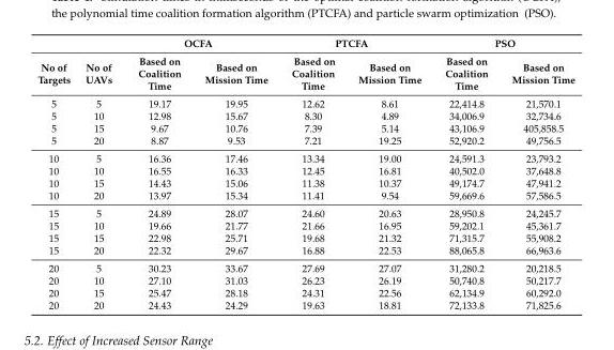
<table><thead><tr><td rowspan="2">No of Targets</td><td rowspan="2">No of UAVs</td><td colspan="2">OCFA</td><td colspan="2">PTCFA</td><td colspan="2">PSO</td></tr><tr><td>Based on Coalition Time</td><td>Based on Mission Time</td><td>Based on Coalition Time</td><td>Based on Mission Time</td><td>Based on Coalition Time</td><td>Based on Mission Time</td></tr></thead><tbody><tr><td>5</td><td>5</td><td>19.17</td><td>19.95</td><td>12.62</td><td>8.61</td><td>22,414.8</td><td>21,570.1</td></tr><tr><td>5</td><td>10</td><td>12.98</td><td>15.67</td><td>8.30</td><td>4.89</td><td>34,006.9</td><td>32,734.6</td></tr><tr><td>5</td><td>15</td><td>9.67</td><td>10.76</td><td>7.39</td><td>5.14</td><td>43,106.9</td><td>405,858.5</td></tr><tr><td>5</td><td>20</td><td>8.87</td><td>9.53</td><td>7.21</td><td>19.25</td><td>52,920.2</td><td>49,756.5</td></tr><tr><td>10</td><td>5</td><td>16.36</td><td>17.46</td><td>13.34</td><td>19.00</td><td>24,591.3</td><td>23,793.2</td></tr><tr><td>10</td><td>10</td><td>16.55</td><td>16.33</td><td>12.45</td><td>16.81</td><td>40,502.0</td><td>37,648.8</td></tr><tr><td>10</td><td>15</td><td>14.43</td><td>15.06</td><td>11.38</td><td>10.37</td><td>49,174.7</td><td>47,941.2</td></tr><tr><td>10</td><td>20</td><td>13.97</td><td>15.34</td><td>11.41</td><td>9.54</td><td>59,669.6</td><td>57,586.5</td></tr><tr><td>15</td><td>5</td><td>24.89</td><td>28.07</td><td>24.60</td><td>20.63</td><td>28,950.8</td><td>24,245.7</td></tr><tr><td>15</td><td>10</td><td>19.66</td><td>21.77</td><td>21.66</td><td>16.95</td><td>59,202.1</td><td>45,361.7</td></tr><tr><td>15</td><td>15</td><td>22.98</td><td>25.71</td><td>19.68</td><td>21.32</td><td>71,315.7</td><td>55,908.2</td></tr><tr><td>15</td><td>20</td><td>22.32</td><td>29.67</td><td>16.88</td><td>22.53</td><td>88,065.8</td><td>66,963.6</td></tr><tr><td>20</td><td>5</td><td>30.23</td><td>33.67</td><td>27.69</td><td>27.07</td><td>31,280.2</td><td>20,218.5</td></tr><tr><td>20</td><td>10</td><td>27.10</td><td>31.03</td><td>26.23</td><td>26.19</td><td>50,740.8</td><td>50,217.7</td></tr><tr><td>20</td><td>15</td><td>25.47</td><td>28.18</td><td>24.31</td><td>22.56</td><td>62,134.9</td><td>60,292.0</td></tr><tr><td>20</td><td>20</td><td>24.43</td><td>24.29</td><td>19.63</td><td>18.81</td><td>72,133.8</td><td>71,825.6</td></tr></tbody></table>